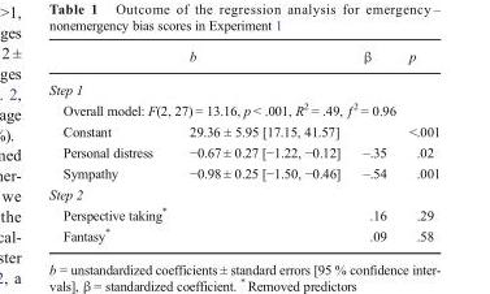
<table><thead><tr><td></td><td>b</td><td>β</td><td>p</td></tr></thead><tbody><tr><td colspan="4">Step 1</td></tr><tr><td colspan="4">Overall model: F(2, 27) = 13.16, p &lt; .001, R<sup>2</sup> = .49, ƒ<sup>2</sup> = 0.96</td></tr><tr><td>Constant</td><td>29.36 ± 5.95 [17.15, 41.57]</td><td></td><td>&lt;.001</td></tr><tr><td>Personal distress</td><td>−0.67 ± 0.27 [−1.22, −0.12]</td><td>–.35</td><td>.02</td></tr><tr><td>Sympathy</td><td>−0.98 ± 0.25 [−1.50, −0.46]</td><td>–.54</td><td>.001</td></tr><tr><td colspan="4">Step 2</td></tr><tr><td>Perspective taking*</td><td></td><td>.16</td><td>.29</td></tr><tr><td>Fantasy*</td><td></td><td>.09</td><td>.58</td></tr></tbody></table>